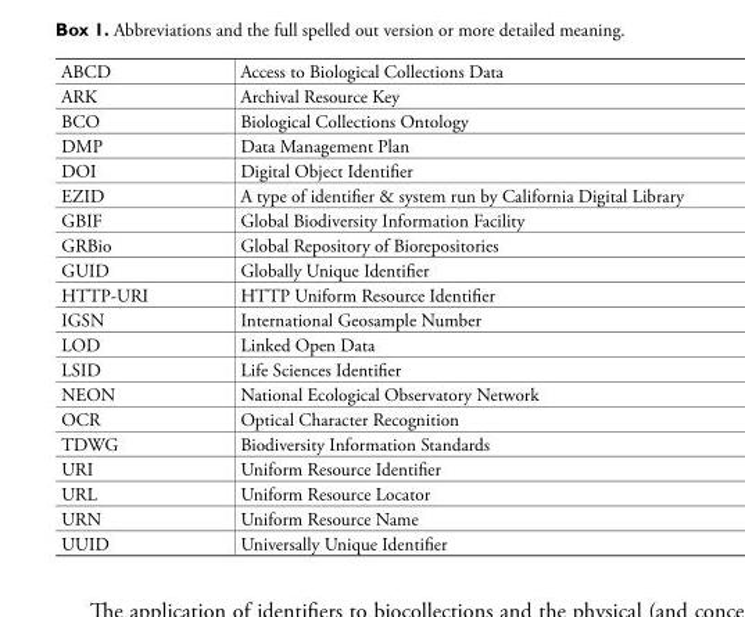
<table><tbody><tr><td>ABCD</td><td>Access to Biological Collections Data</td></tr><tr><td>ARK</td><td>Archival Resource Key</td></tr><tr><td>BCO</td><td>Biological Collections Ontology</td></tr><tr><td>DMP</td><td>Data Management Plan</td></tr><tr><td>DOI</td><td>Digital Object Identifier</td></tr><tr><td>EZID</td><td>A type of identifier &amp; system run by California Digital Library</td></tr><tr><td>GBIF</td><td>Global Biodiversity Information Facility</td></tr><tr><td>GRBio</td><td>Global Repository of Biorepositories</td></tr><tr><td>GUID</td><td>Globally Unique Identifier</td></tr><tr><td>HTTP-URI</td><td>HTTP Uniform Resource Identifier</td></tr><tr><td>IGSN</td><td>International Geosample Number</td></tr><tr><td>LOD</td><td>Linked Open Data</td></tr><tr><td>LSID</td><td>Life Sciences Identifier</td></tr><tr><td>NEON</td><td>National Ecological Observatory Network</td></tr><tr><td>OCR</td><td>Optical Character Recognition</td></tr><tr><td>TDWG</td><td>Biodiversity Information Standards</td></tr><tr><td>URI</td><td>Uniform Resource Identifier</td></tr><tr><td>URL</td><td>Uniform Resource Locator</td></tr><tr><td>URN</td><td>Uniform Resource Name</td></tr><tr><td>UUID</td><td>Universally Unique Identifier</td></tr></tbody></table>